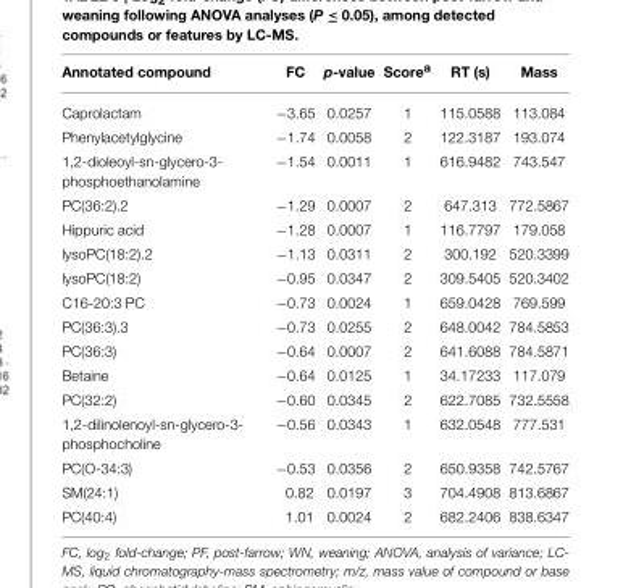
<table><thead><tr><td>Annotated compound</td><td>FC</td><td>p-value</td><td>Score<sup>a</sup></td><td>RT (s)</td><td>Mass</td></tr></thead><tbody><tr><td>Caprolactam</td><td>−3.65</td><td>0.0257</td><td>1</td><td>115.0588</td><td>113.084</td></tr><tr><td>Phenylacetylglycine</td><td>−1.74</td><td>0.0058</td><td>2</td><td>122.3187</td><td>193.074</td></tr><tr><td>1,2-dioleoyl-sn-glycero-3- phosphoethanolamine</td><td>−1.54</td><td>0.0011</td><td>1</td><td>616.9482</td><td>743.547</td></tr><tr><td>PC(36:2).2</td><td>−1.29</td><td>0.0007</td><td>2</td><td>647.313</td><td>772.5867</td></tr><tr><td>Hippuric acid</td><td>−1.28</td><td>0.0007</td><td>1</td><td>116.7797</td><td>179.058</td></tr><tr><td>lysoPC(18:2).2</td><td>−1.13</td><td>0.0311</td><td>2</td><td>300.192</td><td>520.3399</td></tr><tr><td>lysoPC(18:2)</td><td>−0.95</td><td>0.0347</td><td>2</td><td>309.5405</td><td>520.3402</td></tr><tr><td>C16-20:3 PC</td><td>−0.73</td><td>0.0024</td><td>1</td><td>659.0428</td><td>769.599</td></tr><tr><td>PC(36:3).3</td><td>−0.73</td><td>0.0255</td><td>2</td><td>648.0042</td><td>784.5853</td></tr><tr><td>PC(36:3)</td><td>−0.64</td><td>0.0007</td><td>2</td><td>641.6088</td><td>784.5871</td></tr><tr><td>Betaine</td><td>−0.64</td><td>0.0125</td><td>1</td><td>34.17233</td><td>117.079</td></tr><tr><td>PC(32:2)</td><td>−0.60</td><td>0.0345</td><td>2</td><td>622.7085</td><td>732.5558</td></tr><tr><td>1,2-dilinolenoyl-sn-glycero-3- phosphocholine</td><td>−0.56</td><td>0.0343</td><td>1</td><td>632.0548</td><td>777.531</td></tr><tr><td>PC(O-34:3)</td><td>−0.53</td><td>0.0356</td><td>2</td><td>650.9358</td><td>742.5767</td></tr><tr><td>SM(24:1)</td><td>0.82</td><td>0.0197</td><td>3</td><td>704.4908</td><td>813.6867</td></tr><tr><td>PC(40:4)</td><td>1.01</td><td>0.0024</td><td>2</td><td>682.2406</td><td>838.6347</td></tr></tbody></table>